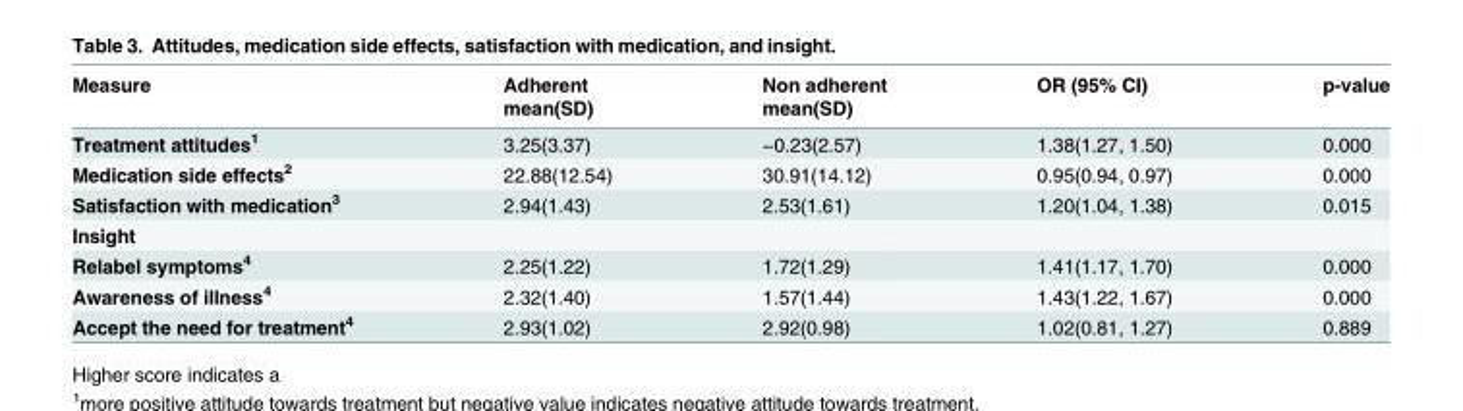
<table><thead><tr><td rowspan="2">Measure</td><td rowspan="2">Adherent mean(SD)</td><td rowspan="2">Non adherent mean(SD)</td><td rowspan="2">OR (95% CI)</td><td rowspan="2">p-value</td></tr><tr></tr></thead><tbody><tr><td>Treatment attitudes<sup>1</sup></td><td>3.25(3.37)</td><td>−0.23(2.57)</td><td>1.38(1.27, 1.50)</td><td>0.000</td></tr><tr><td>Medication side effects<sup>2</sup></td><td>22.88(12.54)</td><td>30.91(14.12)</td><td>0.95(0.94, 0.97)</td><td>0.000</td></tr><tr><td>Satisfaction with medication<sup>3</sup></td><td>2.94(1.43)</td><td>2.53(1.61)</td><td>1.20(1.04, 1.38)</td><td>0.015</td></tr><tr><td colspan="5">Insight</td></tr><tr><td>Relabel symptoms<sup>4</sup></td><td>2.25(1.22)</td><td>1.72(1.29)</td><td>1.41(1.17, 1.70)</td><td>0.000</td></tr><tr><td>Awareness of illness<sup>4</sup></td><td>2.32(1.40)</td><td>1.57(1.44)</td><td>1.43(1.22, 1.67)</td><td>0.000</td></tr><tr><td>Accept the need for treatment<sup>4</sup></td><td>2.93(1.02)</td><td>2.92(0.98)</td><td>1.02(0.81, 1.27)</td><td>0.889</td></tr></tbody></table>